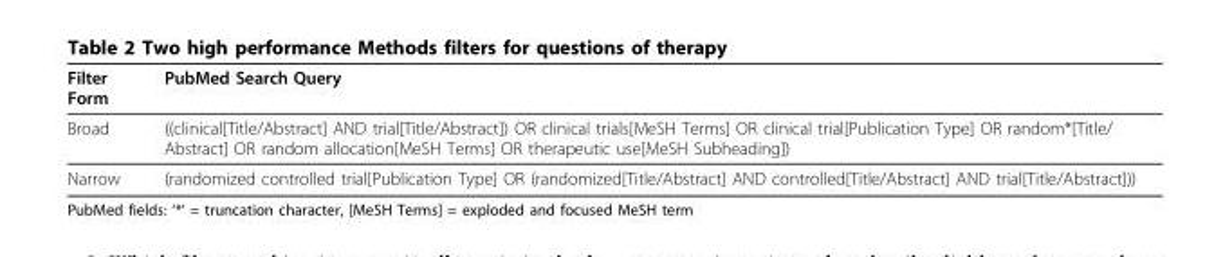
<table><thead><tr><td>Filter Form</td><td>PubMed Search Query</td></tr></thead><tbody><tr><td>Broad</td><td>((clinical[Title/Abstract] AND trial[Title/Abstract]) OR clinical trials[MeSH Terms] OR clinical trial[Publication Type] OR random*[Title/ Abstract] OR random allocation[MeSH Terms] OR therapeutic use[MeSH Subheading])</td></tr><tr><td>Narrow</td><td>(randomized controlled trial[Publication Type] OR (randomized[Title/Abstract] AND controlled[Title/Abstract] AND trial[Title/Abstract]))</td></tr></tbody></table>